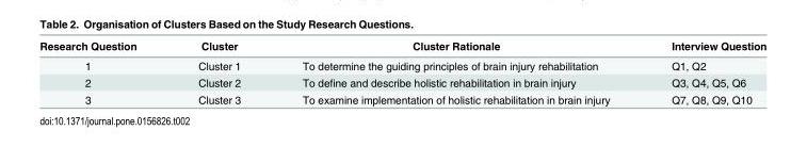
<table><thead><tr><td>Research Question</td><td>Cluster</td><td>Cluster Rationale</td><td>Interview Question</td></tr></thead><tbody><tr><td>1</td><td>Cluster 1</td><td>To determine the guiding principles of brain injury rehabilitation</td><td>Q1, Q2</td></tr><tr><td>2</td><td>Cluster 2</td><td>To define and describe holistic rehabilitation in brain injury</td><td>Q3, Q4, Q5, Q6</td></tr><tr><td>3</td><td>Cluster 3</td><td>To examine implementation of holistic rehabilitation in brain injury</td><td>Q7, Q8, Q9, Q10</td></tr></tbody></table>